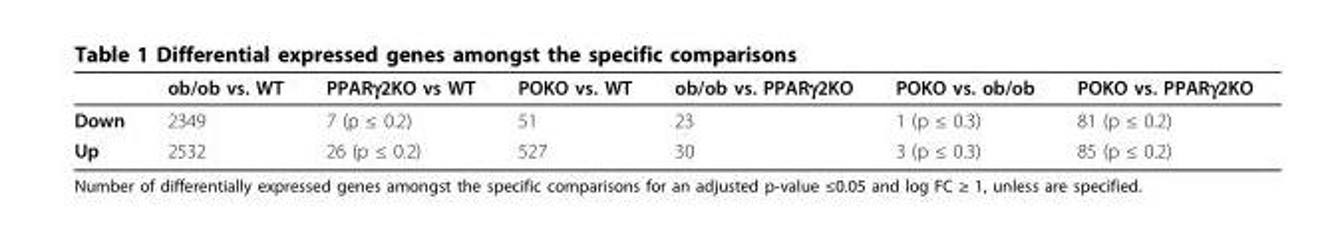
<table><thead><tr><td></td><td>ob/ob vs. WT</td><td>PPARγ2KO vs WT</td><td>POKO vs. WT</td><td>ob/ob vs. PPARγ2KO</td><td>POKO vs. ob/ob</td><td>POKO vs. PPARγ2KO</td></tr></thead><tbody><tr><td>Down</td><td>2349</td><td>7 (p ≤ 0.2)</td><td>51</td><td>23</td><td>1 (p ≤ 0.3)</td><td>81 (p ≤ 0.2)</td></tr><tr><td>Up</td><td>2532</td><td>26 (p ≤ 0.2)</td><td>527</td><td>30</td><td>3 (p ≤ 0.3)</td><td>85 (p ≤ 0.2)</td></tr></tbody></table>